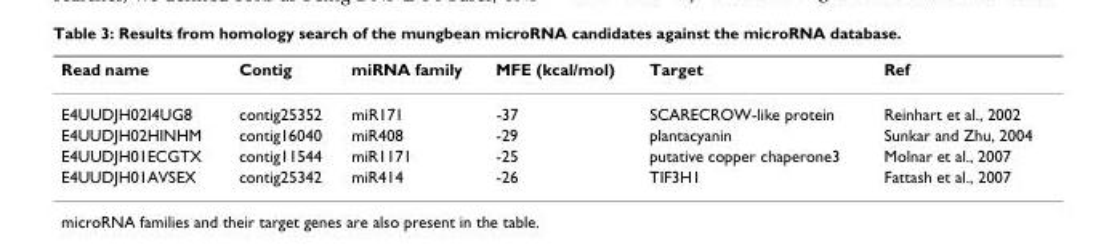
<table><thead><tr><td>Read name</td><td>Contig</td><td>miRNA family</td><td>MFE (kcal/mol)</td><td>Target</td><td>Ref</td></tr></thead><tbody><tr><td>E4UUDJH02I4UG8</td><td>contig25352</td><td>miR171</td><td>-37</td><td>SCARECROW-like protein</td><td>Reinhart et al., 2002</td></tr><tr><td>E4UUDJH02HINHM</td><td>contig16040</td><td>miR408</td><td>-29</td><td>plantacyanin</td><td>Sunkar and Zhu, 2004</td></tr><tr><td>E4UUDJH01ECGTX</td><td>contig11544</td><td>miR1171</td><td>-25</td><td>putative copper chaperone3</td><td>Molnar et al., 2007</td></tr><tr><td>E4UUDJH01AVSEX</td><td>contig25342</td><td>miR414</td><td>-26</td><td>TIF3H1</td><td>Fattash et al., 2007</td></tr></tbody></table>